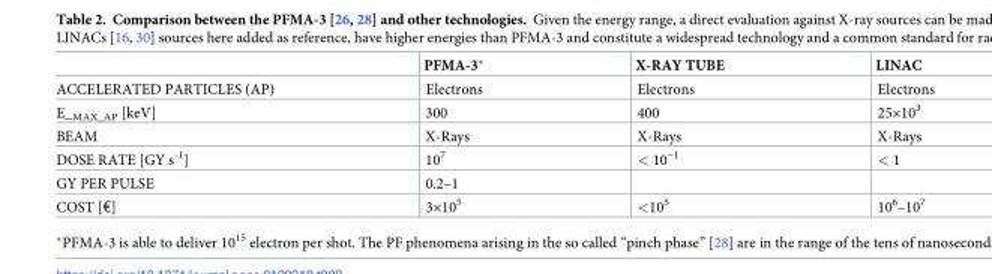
<table><thead><tr><td></td><td>PFMA-3*</td><td>X-RAY TUBE</td><td>LINAC</td></tr></thead><tbody><tr><td>ACCELERATED PARTICLES (AP)</td><td>Electrons</td><td>Electrons</td><td>Electrons</td></tr><tr><td>E_MAX_AP [keV]</td><td>300</td><td>400</td><td>25×103</td></tr><tr><td>BEAM</td><td>X-Rays</td><td>X-Rays</td><td>X-Rays</td></tr><tr><td>DOSE RATE [GY s-1]</td><td>107</td><td>&lt; 10−1</td><td>&lt; 1</td></tr><tr><td>GY PER PULSE</td><td>0.2–1</td><td></td><td></td></tr><tr><td>COST [€]</td><td>3×105</td><td>&lt;105</td><td>106–107</td></tr></tbody></table>